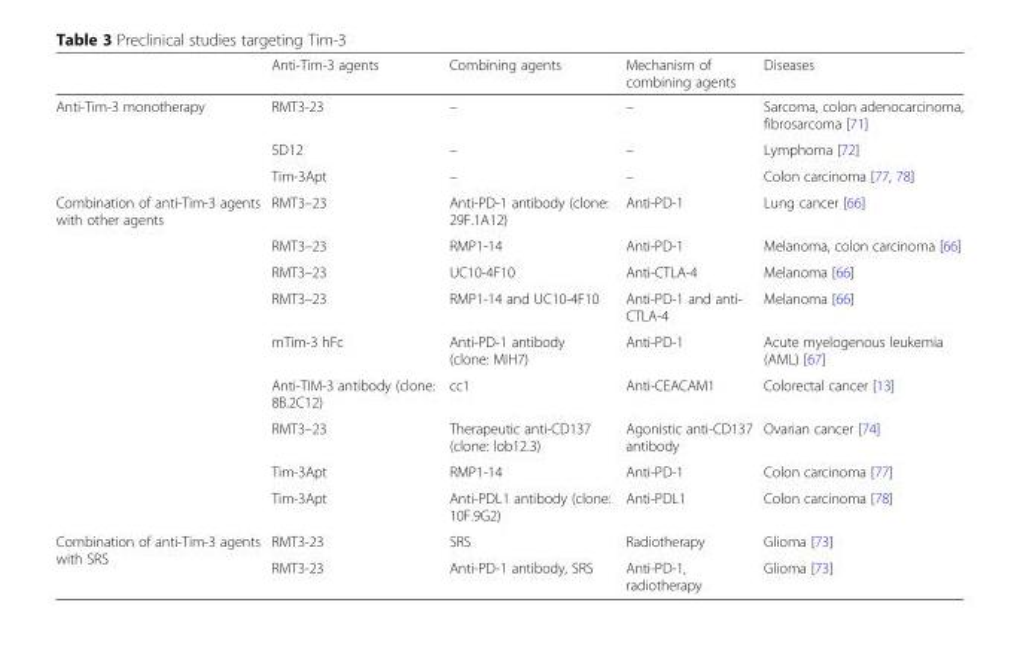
<table><thead><tr><td></td><td>Anti-Tim-3 agents</td><td>Combining agents</td><td>Mechanism of combining agents</td><td>Diseases</td></tr></thead><tbody><tr><td rowspan="3">Anti-Tim-3 monotherapy</td><td>RMT3-23</td><td>–</td><td>–</td><td>Sarcoma, colon adenocarcinoma, fibrosarcoma [71]</td></tr><tr><td>5D12</td><td>–</td><td>–</td><td>Lymphoma [72]</td></tr><tr><td>Tim-3Apt</td><td>–</td><td>–</td><td>Colon carcinoma [77, 78]</td></tr><tr><td rowspan="9">Combination of anti-Tim-3 agents with other agents</td><td>RMT3–23</td><td>Anti-PD-1 antibody (clone: 29F.1A12)</td><td>Anti-PD-1</td><td>Lung cancer [66]</td></tr><tr><td>RMT3–23</td><td>RMP1-14</td><td>Anti-PD-1</td><td>Melanoma, colon carcinoma [66]</td></tr><tr><td>RMT3–23</td><td>UC10-4F10</td><td>Anti-CTLA-4</td><td>Melanoma [66]</td></tr><tr><td>RMT3–23</td><td>RMP1-14 and UC10-4F10</td><td>Anti-PD-1 and anti- CTLA-4</td><td>Melanoma [66]</td></tr><tr><td>mTim-3 hFc</td><td>Anti-PD-1 antibody (clone: MIH7)</td><td>Anti-PD-1</td><td>Acute myelogenous leukemia (AML) [67]</td></tr><tr><td>Anti-TIM-3 antibody (clone: 8B.2C12)</td><td>cc1</td><td>Anti-CEACAM1</td><td>Colorectal cancer [13]</td></tr><tr><td>RMT3–23</td><td>Therapeutic anti-CD137 (clone: lob12.3)</td><td>Agonistic anti-CD137 antibody</td><td>Ovarian cancer [74]</td></tr><tr><td>Tim-3Apt</td><td>RMP1-14</td><td>Anti-PD-1</td><td>Colon carcinoma [77]</td></tr><tr><td>Tim-3Apt</td><td>Anti-PDL1 antibody (clone: 10F.9G2)</td><td>Anti-PDL1</td><td>Colon carcinoma [78]</td></tr><tr><td rowspan="2">Combination of anti-Tim-3 agents with SRS</td><td>RMT3-23</td><td>SRS</td><td>Radiotherapy</td><td>Glioma [73]</td></tr><tr><td>RMT3-23</td><td>Anti-PD-1 antibody, SRS</td><td>Anti-PD-1, radiotherapy</td><td>Glioma [73]</td></tr></tbody></table>